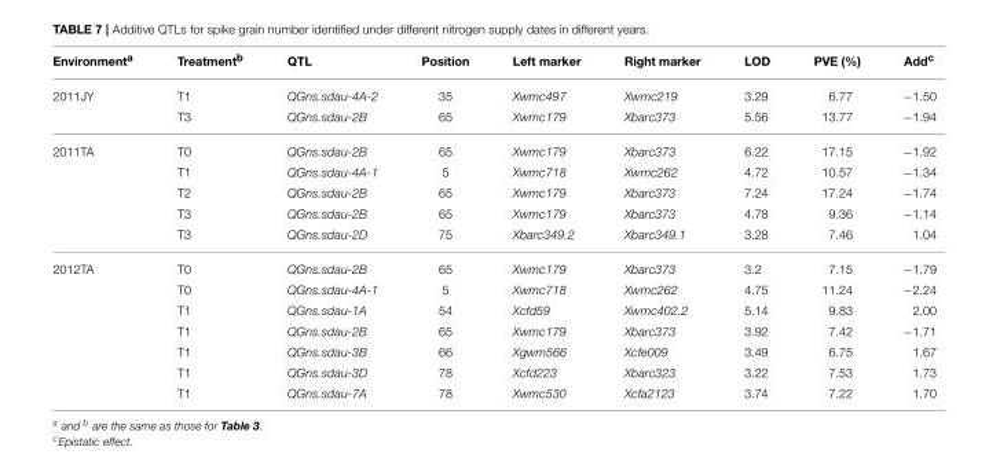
<table><thead><tr><td>Environment<sup>a</sup></td><td>Treatment<sup>b</sup></td><td>QTL</td><td>Position</td><td>Left marker</td><td>Right marker</td><td>LOD</td><td>PVE (%)</td><td>Add<sup>c</sup></td></tr></thead><tbody><tr><td rowspan="2">2011JY</td><td>T1</td><td>QGns.sdau-4A-2</td><td>35</td><td>Xwmc497</td><td>Xwmc219</td><td>3.29</td><td>6.77</td><td>−1.50</td></tr><tr><td>T3</td><td>QGns.sdau-2B</td><td>65</td><td>Xwmc179</td><td>Xbarc373</td><td>5.56</td><td>13.77</td><td>−1.94</td></tr><tr><td rowspan="5">2011TA</td><td>T0</td><td>QGns.sdau-2B</td><td>65</td><td>Xwmc179</td><td>Xbarc373</td><td>6.22</td><td>17.15</td><td>−1.92</td></tr><tr><td>T1</td><td>QGns.sdau-4A-1</td><td>5</td><td>Xwmc718</td><td>Xwmc262</td><td>4.72</td><td>10.57</td><td>−1.34</td></tr><tr><td>T2</td><td>QGns.sdau-2B</td><td>65</td><td>Xwmc179</td><td>Xbarc373</td><td>7.24</td><td>17.24</td><td>−1.74</td></tr><tr><td>T3</td><td>QGns.sdau-2B</td><td>65</td><td>Xwmc179</td><td>Xbarc373</td><td>4.78</td><td>9.36</td><td>−1.14</td></tr><tr><td>T3</td><td>QGns.sdau-2D</td><td>75</td><td>Xbarc349.2</td><td>Xbarc349.1</td><td>3.28</td><td>7.46</td><td>1.04</td></tr><tr><td rowspan="7">2012TA</td><td>T0</td><td>QGns.sdau-2B</td><td>65</td><td>Xwmc179</td><td>Xbarc373</td><td>3.2</td><td>7.15</td><td>−1.79</td></tr><tr><td>T0</td><td>QGns.sdau-4A-1</td><td>5</td><td>Xwmc718</td><td>Xwmc262</td><td>4.75</td><td>11.24</td><td>−2.24</td></tr><tr><td>T1</td><td>QGns.sdau-1A</td><td>54</td><td>Xcfd59</td><td>Xwmc402.2</td><td>5.14</td><td>9.83</td><td>2.00</td></tr><tr><td>T1</td><td>QGns.sdau-2B</td><td>65</td><td>Xwmc179</td><td>Xbarc373</td><td>3.92</td><td>7.42</td><td>−1.71</td></tr><tr><td>T1</td><td>QGns.sdau-3B</td><td>66</td><td>Xgwm566</td><td>Xcfe009</td><td>3.49</td><td>6.75</td><td>1.67</td></tr><tr><td>T1</td><td>QGns.sdau-3D</td><td>78</td><td>Xcfd223</td><td>Xbarc323</td><td>3.22</td><td>7.53</td><td>1.73</td></tr><tr><td>T1</td><td>QGns.sdau-7A</td><td>78</td><td>Xwmc530</td><td>Xcfa2123</td><td>3.74</td><td>7.22</td><td>1.70</td></tr></tbody></table>